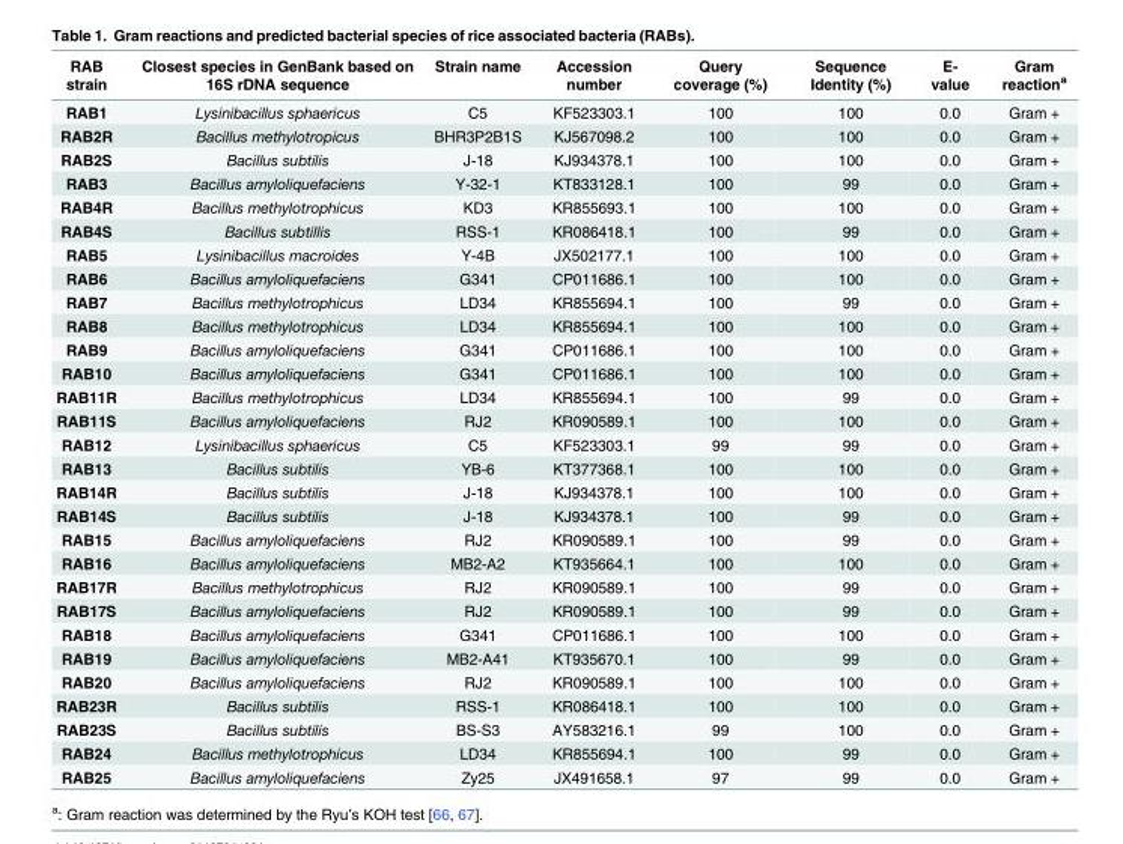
<table><thead><tr><td>RAB strain</td><td>Closest species in GenBank based on 16S rDNA sequence</td><td>Strain name</td><td>Accession number</td><td>Query coverage (%)</td><td>Sequence Identity (%)</td><td>E- value</td><td>Gram reaction<sup>a</sup></td></tr></thead><tbody><tr><td>RAB1</td><td>Lysinibacillus sphaericus</td><td>C5</td><td>KF523303.1</td><td>100</td><td>100</td><td>0.0</td><td>Gram +</td></tr><tr><td>RAB2R</td><td>Bacillus methylotropicus</td><td>BHR3P2B1S</td><td>KJ567098.2</td><td>100</td><td>100</td><td>0.0</td><td>Gram +</td></tr><tr><td>RAB2S</td><td>Bacillus subtilis</td><td>J-18</td><td>KJ934378.1</td><td>100</td><td>100</td><td>0.0</td><td>Gram +</td></tr><tr><td>RAB3</td><td>Bacillus amyloliquefaciens</td><td>Y-32-1</td><td>KT833128.1</td><td>100</td><td>99</td><td>0.0</td><td>Gram +</td></tr><tr><td>RAB4R</td><td>Bacillus methylotrophicus</td><td>KD3</td><td>KR855693.1</td><td>100</td><td>100</td><td>0.0</td><td>Gram +</td></tr><tr><td>RAB4S</td><td>Bacillus subtillis</td><td>RSS-1</td><td>KR086418.1</td><td>100</td><td>99</td><td>0.0</td><td>Gram +</td></tr><tr><td>RAB5</td><td>Lysinibacillus macroides</td><td>Y-4B</td><td>JX502177.1</td><td>100</td><td>100</td><td>0.0</td><td>Gram +</td></tr><tr><td>RAB6</td><td>Bacillus amyloliquefaciens</td><td>G341</td><td>CP011686.1</td><td>100</td><td>100</td><td>0.0</td><td>Gram +</td></tr><tr><td>RAB7</td><td>Bacillus methylotrophicus</td><td>LD34</td><td>KR855694.1</td><td>100</td><td>99</td><td>0.0</td><td>Gram +</td></tr><tr><td>RAB8</td><td>Bacillus methylotrophicus</td><td>LD34</td><td>KR855694.1</td><td>100</td><td>100</td><td>0.0</td><td>Gram +</td></tr><tr><td>RAB9</td><td>Bacillus amyloliquefaciens</td><td>G341</td><td>CP011686.1</td><td>100</td><td>100</td><td>0.0</td><td>Gram +</td></tr><tr><td>RAB10</td><td>Bacillus amyloliquefaciens</td><td>G341</td><td>CP011686.1</td><td>100</td><td>100</td><td>0.0</td><td>Gram +</td></tr><tr><td>RAB11R</td><td>Bacillus methylotrophicus</td><td>LD34</td><td>KR855694.1</td><td>100</td><td>99</td><td>0.0</td><td>Gram +</td></tr><tr><td>RAB11S</td><td>Bacillus amyloliquefaciens</td><td>RJ2</td><td>KR090589.1</td><td>100</td><td>100</td><td>0.0</td><td>Gram +</td></tr><tr><td>RAB12</td><td>Lysinibacillus sphaericus</td><td>C5</td><td>KF523303.1</td><td>99</td><td>99</td><td>0.0</td><td>Gram +</td></tr><tr><td>RAB13</td><td>Bacillus subtilis</td><td>YB-6</td><td>KT377368.1</td><td>100</td><td>100</td><td>0.0</td><td>Gram +</td></tr><tr><td>RAB14R</td><td>Bacillus subtilis</td><td>J-18</td><td>KJ934378.1</td><td>100</td><td>100</td><td>0.0</td><td>Gram +</td></tr><tr><td>RAB14S</td><td>Bacillus subtilis</td><td>J-18</td><td>KJ934378.1</td><td>100</td><td>99</td><td>0.0</td><td>Gram +</td></tr><tr><td>RAB15</td><td>Bacillus amyloliquefaciens</td><td>RJ2</td><td>KR090589.1</td><td>100</td><td>99</td><td>0.0</td><td>Gram +</td></tr><tr><td>RAB16</td><td>Bacillus amyloliquefaciens</td><td>MB2-A2</td><td>KT935664.1</td><td>100</td><td>100</td><td>0.0</td><td>Gram +</td></tr><tr><td>RAB17R</td><td>Bacillus methylotrophicus</td><td>RJ2</td><td>KR090589.1</td><td>100</td><td>99</td><td>0.0</td><td>Gram +</td></tr><tr><td>RAB17S</td><td>Bacillus amyloliquefaciens</td><td>RJ2</td><td>KR090589.1</td><td>100</td><td>99</td><td>0.0</td><td>Gram +</td></tr><tr><td>RAB18</td><td>Bacillus amyloliquefaciens</td><td>G341</td><td>CP011686.1</td><td>100</td><td>100</td><td>0.0</td><td>Gram +</td></tr><tr><td>RAB19</td><td>Bacillus amyloliquefaciens</td><td>MB2-A41</td><td>KT935670.1</td><td>100</td><td>99</td><td>0.0</td><td>Gram +</td></tr><tr><td>RAB20</td><td>Bacillus amyloliquefaciens</td><td>RJ2</td><td>KR090589.1</td><td>100</td><td>100</td><td>0.0</td><td>Gram +</td></tr><tr><td>RAB23R</td><td>Bacillus subtilis</td><td>RSS-1</td><td>KR086418.1</td><td>100</td><td>100</td><td>0.0</td><td>Gram +</td></tr><tr><td>RAB23S</td><td>Bacillus subtilis</td><td>BS-S3</td><td>AY583216.1</td><td>99</td><td>100</td><td>0.0</td><td>Gram +</td></tr><tr><td>RAB24</td><td>Bacillus methylotrophicus</td><td>LD34</td><td>KR855694.1</td><td>100</td><td>99</td><td>0.0</td><td>Gram +</td></tr><tr><td>RAB25</td><td>Bacillus amyloliquefaciens</td><td>Zy25</td><td>JX491658.1</td><td>97</td><td>99</td><td>0.0</td><td>Gram +</td></tr></tbody></table>